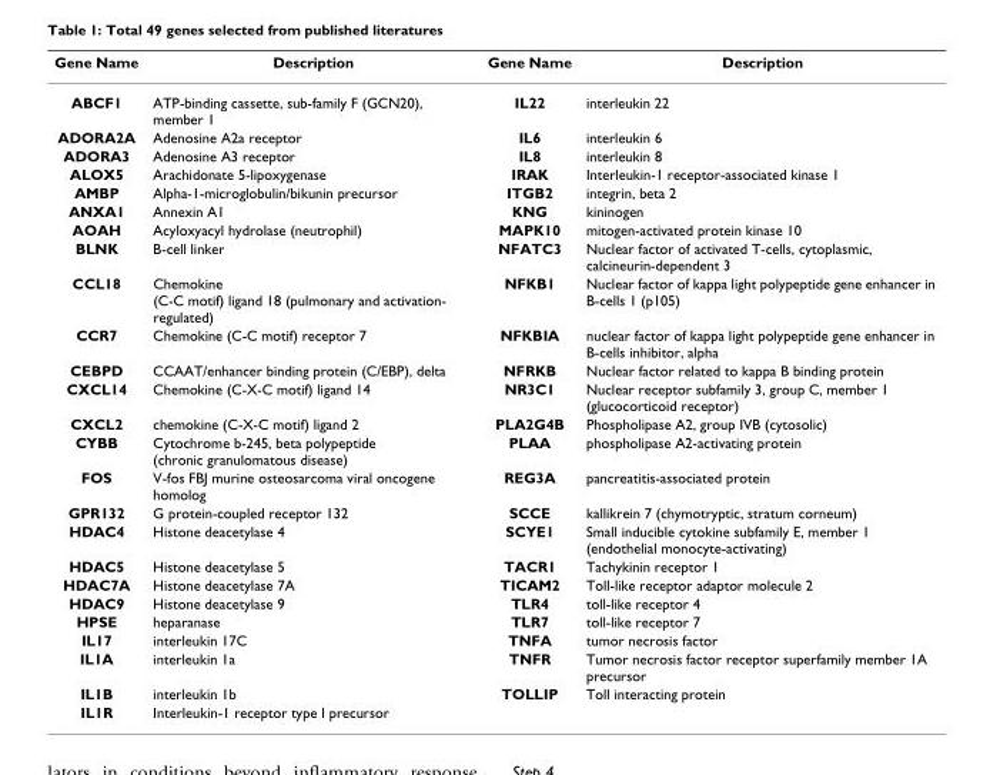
<table><thead><tr><td>Gene Name</td><td>Description</td><td>Gene Name</td><td>Description</td></tr></thead><tbody><tr><td>ABCF1</td><td>ATP-binding cassette, sub-family F (GCN20), member 1</td><td>IL22</td><td>interleukin 22</td></tr><tr><td>ADORA2A</td><td>Adenosine A2a receptor</td><td>IL6</td><td>interleukin 6</td></tr><tr><td>ADORA3</td><td>Adenosine A3 receptor</td><td>IL8</td><td>interleukin 8</td></tr><tr><td>ALOX5</td><td>Arachidonate 5-lipoxygenase</td><td>IRAK</td><td>Interleukin-1 receptor-associated kinase 1</td></tr><tr><td>AMBP</td><td>Alpha-1-microglobulin/bikunin precursor</td><td>ITGB2</td><td>integrin, beta 2</td></tr><tr><td>ANXA1</td><td>Annexin A1</td><td>KNG</td><td>kininogen</td></tr><tr><td>AOAH</td><td>Acyloxyacyl hydrolase (neutrophil)</td><td>MAPK10</td><td>mitogen-activated protein kinase 10</td></tr><tr><td>BLNK</td><td>B-cell linker</td><td>NFATC3</td><td>Nuclear factor of activated T-cells, cytoplasmic, calcineurin-dependent 3</td></tr><tr><td>CCL18</td><td>Chemokine (C-C motif) ligand 18 (pulmonary and activation- regulated)</td><td>NFKB1</td><td>Nuclear factor of kappa light polypeptide gene enhancer in B-cells 1 (p105)</td></tr><tr><td>CCR7</td><td>Chemokine (C-C motif) receptor 7</td><td>NFKBIA</td><td>nuclear factor of kappa light polypeptide gene enhancer in B-cells inhibitor, alpha</td></tr><tr><td>CEBPD</td><td>CCAAT/enhancer binding protein (C/EBP), delta</td><td>NFRKB</td><td>Nuclear factor related to kappa B binding protein</td></tr><tr><td>CXCL14</td><td>Chemokine (C-X-C motif) ligand 14</td><td>NR3C1</td><td>Nuclear receptor subfamily 3, group C, member 1 (glucocorticoid receptor)</td></tr><tr><td>CXCL2</td><td>chemokine (C-X-C motif) ligand 2</td><td>PLA2G4B</td><td>Phospholipase A2, group IVB (cytosolic)</td></tr><tr><td>CYBB</td><td>Cytochrome b-245, beta polypeptide (chronic granulomatous disease)</td><td>PLAA</td><td>phospholipase A2-activating protein</td></tr><tr><td>FOS</td><td>V-fos FBJ murine osteosarcoma viral oncogene homolog</td><td>REG3A</td><td>pancreatitis-associated protein</td></tr><tr><td>GPR132</td><td>G protein-coupled receptor 132</td><td>SCCE</td><td>kallikrein 7 (chymotryptic, stratum corneum)</td></tr><tr><td>HDAC4</td><td>Histone deacetylase 4</td><td>SCYE1</td><td>Small inducible cytokine subfamily E, member 1 (endothelial monocyte-activating)</td></tr><tr><td>HDAC5</td><td>Histone deacetylase 5</td><td>TACR1</td><td>Tachykinin receptor 1</td></tr><tr><td>HDAC7A</td><td>Histone deacetylase 7A</td><td>TICAM2</td><td>Toll-like receptor adaptor molecule 2</td></tr><tr><td>HDAC9</td><td>Histone deacetylase 9</td><td>TLR4</td><td>toll-like receptor 4</td></tr><tr><td>HPSE</td><td>heparanase</td><td>TLR7</td><td>toll-like receptor 7</td></tr><tr><td>IL17</td><td>interleukin 17C</td><td>TNFA</td><td>tumor necrosis factor</td></tr><tr><td>IL1A</td><td>interleukin 1a</td><td>TNFR</td><td>Tumor necrosis factor receptor superfamily member 1A precursor</td></tr><tr><td>IL1B</td><td>interleukin 1b</td><td>TOLLIP</td><td>Toll interacting protein</td></tr><tr><td>IL1R</td><td>Interleukin-1 receptor type I precursor</td><td></td><td></td></tr></tbody></table>